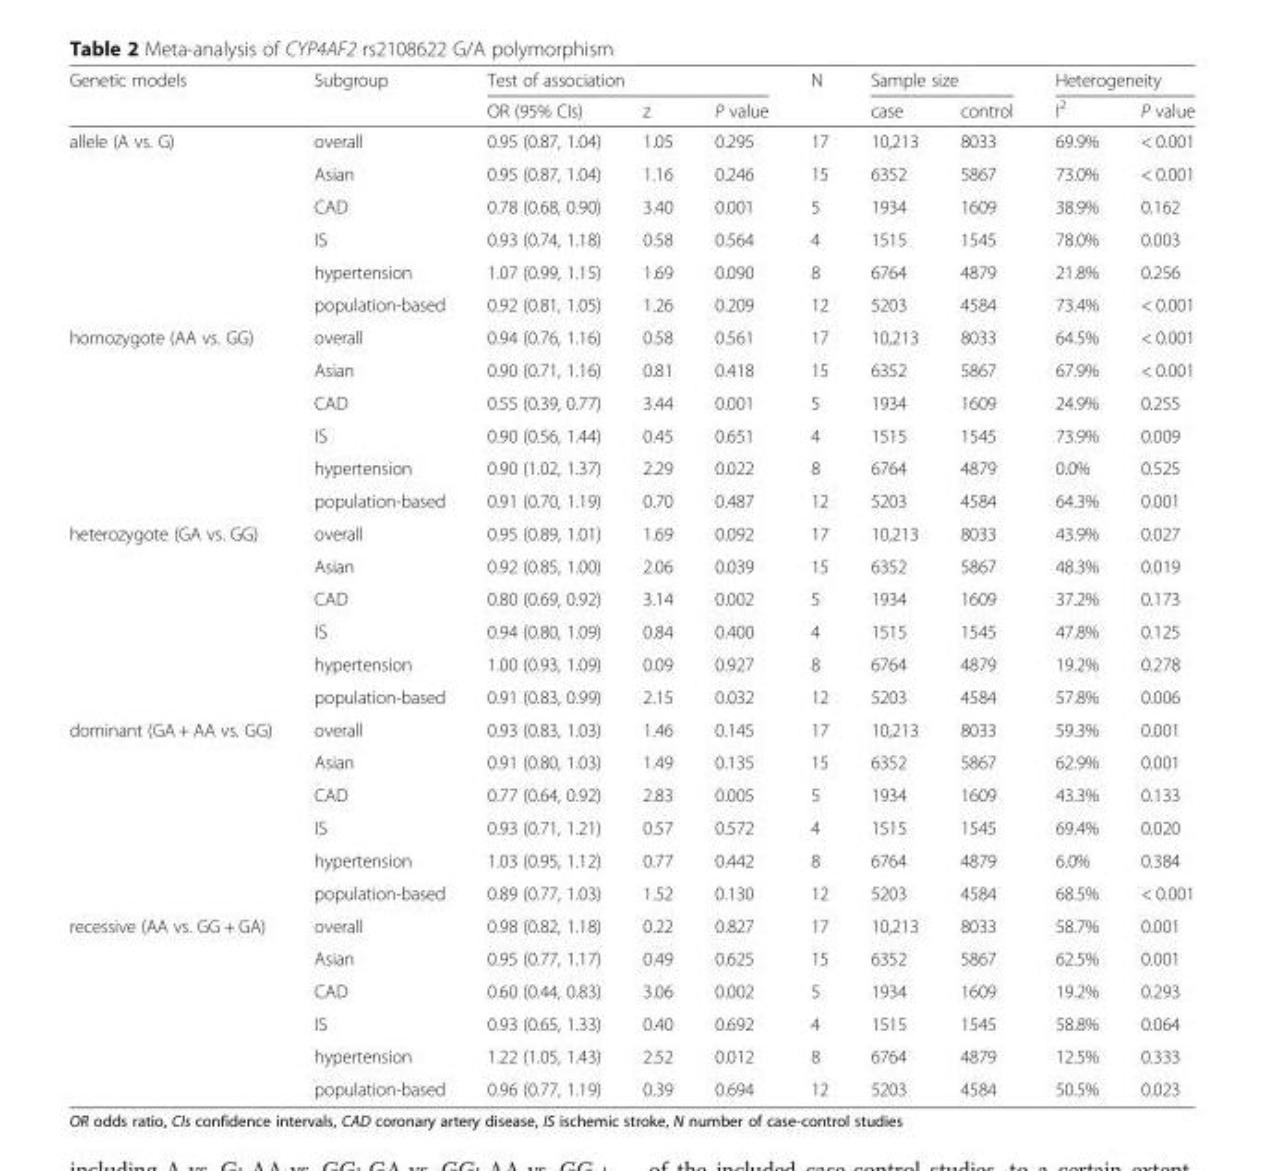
<table><thead><tr><td rowspan="2">Genetic models</td><td rowspan="2">Subgroup</td><td colspan="3">Test of association</td><td rowspan="2">N</td><td colspan="2">Sample size</td><td colspan="2">Heterogeneity</td></tr><tr><td>OR (95% CIs)</td><td>z</td><td>P value</td><td>case</td><td>control</td><td>I<sup>2</sup></td><td>P value</td></tr></thead><tbody><tr><td rowspan="6">allele (A vs. G)</td><td>overall</td><td>0.95 (0.87, 1.04)</td><td>1.05</td><td>0.295</td><td>17</td><td>10,213</td><td>8033</td><td>69.9%</td><td>&lt; 0.001</td></tr><tr><td>Asian</td><td>0.95 (0.87, 1.04)</td><td>1.16</td><td>0.246</td><td>15</td><td>6352</td><td>5867</td><td>73.0%</td><td>&lt; 0.001</td></tr><tr><td>CAD</td><td>0.78 (0.68, 0.90)</td><td>3.40</td><td>0.001</td><td>5</td><td>1934</td><td>1609</td><td>38.9%</td><td>0.162</td></tr><tr><td>IS</td><td>0.93 (0.74, 1.18)</td><td>0.58</td><td>0.564</td><td>4</td><td>1515</td><td>1545</td><td>78.0%</td><td>0.003</td></tr><tr><td>hypertension</td><td>1.07 (0.99, 1.15)</td><td>1.69</td><td>0.090</td><td>8</td><td>6764</td><td>4879</td><td>21.8%</td><td>0.256</td></tr><tr><td>population-based</td><td>0.92 (0.81, 1.05)</td><td>1.26</td><td>0.209</td><td>12</td><td>5203</td><td>4584</td><td>73.4%</td><td>&lt; 0.001</td></tr><tr><td rowspan="6">homozygote (AA vs. GG)</td><td>overall</td><td>0.94 (0.76, 1.16)</td><td>0.58</td><td>0.561</td><td>17</td><td>10,213</td><td>8033</td><td>64.5%</td><td>&lt; 0.001</td></tr><tr><td>Asian</td><td>0.90 (0.71, 1.16)</td><td>0.81</td><td>0.418</td><td>15</td><td>6352</td><td>5867</td><td>67.9%</td><td>&lt; 0.001</td></tr><tr><td>CAD</td><td>0.55 (0.39, 0.77)</td><td>3.44</td><td>0.001</td><td>5</td><td>1934</td><td>1609</td><td>24.9%</td><td>0.255</td></tr><tr><td>IS</td><td>0.90 (0.56, 1.44)</td><td>0.45</td><td>0.651</td><td>4</td><td>1515</td><td>1545</td><td>73.9%</td><td>0.009</td></tr><tr><td>hypertension</td><td>0.90 (1.02, 1.37)</td><td>2.29</td><td>0.022</td><td>8</td><td>6764</td><td>4879</td><td>0.0%</td><td>0.525</td></tr><tr><td>population-based</td><td>0.91 (0.70, 1.19)</td><td>0.70</td><td>0.487</td><td>12</td><td>5203</td><td>4584</td><td>64.3%</td><td>0.001</td></tr><tr><td rowspan="6">heterozygote (GA vs. GG)</td><td>overall</td><td>0.95 (0.89, 1.01)</td><td>1.69</td><td>0.092</td><td>17</td><td>10,213</td><td>8033</td><td>43.9%</td><td>0.027</td></tr><tr><td>Asian</td><td>0.92 (0.85, 1.00)</td><td>2.06</td><td>0.039</td><td>15</td><td>6352</td><td>5867</td><td>48.3%</td><td>0.019</td></tr><tr><td>CAD</td><td>0.80 (0.69, 0.92)</td><td>3.14</td><td>0.002</td><td>5</td><td>1934</td><td>1609</td><td>37.2%</td><td>0.173</td></tr><tr><td>IS</td><td>0.94 (0.80, 1.09)</td><td>0.84</td><td>0.400</td><td>4</td><td>1515</td><td>1545</td><td>47.8%</td><td>0.125</td></tr><tr><td>hypertension</td><td>1.00 (0.93, 1.09)</td><td>0.09</td><td>0.927</td><td>8</td><td>6764</td><td>4879</td><td>19.2%</td><td>0.278</td></tr><tr><td>population-based</td><td>0.91 (0.83, 0.99)</td><td>2.15</td><td>0.032</td><td>12</td><td>5203</td><td>4584</td><td>57.8%</td><td>0.006</td></tr><tr><td rowspan="6">dominant (GA + AA vs. GG)</td><td>overall</td><td>0.93 (0.83, 1.03)</td><td>1.46</td><td>0.145</td><td>17</td><td>10,213</td><td>8033</td><td>59.3%</td><td>0.001</td></tr><tr><td>Asian</td><td>0.91 (0.80, 1.03)</td><td>1.49</td><td>0.135</td><td>15</td><td>6352</td><td>5867</td><td>62.9%</td><td>0.001</td></tr><tr><td>CAD</td><td>0.77 (0.64, 0.92)</td><td>2.83</td><td>0.005</td><td>5</td><td>1934</td><td>1609</td><td>43.3%</td><td>0.133</td></tr><tr><td>IS</td><td>0.93 (0.71, 1.21)</td><td>0.57</td><td>0.572</td><td>4</td><td>1515</td><td>1545</td><td>69.4%</td><td>0.020</td></tr><tr><td>hypertension</td><td>1.03 (0.95, 1.12)</td><td>0.77</td><td>0.442</td><td>8</td><td>6764</td><td>4879</td><td>6.0%</td><td>0.384</td></tr><tr><td>population-based</td><td>0.89 (0.77, 1.03)</td><td>1.52</td><td>0.130</td><td>12</td><td>5203</td><td>4584</td><td>68.5%</td><td>&lt; 0.001</td></tr><tr><td rowspan="6">recessive (AA vs. GG + GA)</td><td>overall</td><td>0.98 (0.82, 1.18)</td><td>0.22</td><td>0.827</td><td>17</td><td>10,213</td><td>8033</td><td>58.7%</td><td>0.001</td></tr><tr><td>Asian</td><td>0.95 (0.77, 1.17)</td><td>0.49</td><td>0.625</td><td>15</td><td>6352</td><td>5867</td><td>62.5%</td><td>0.001</td></tr><tr><td>CAD</td><td>0.60 (0.44, 0.83)</td><td>3.06</td><td>0.002</td><td>5</td><td>1934</td><td>1609</td><td>19.2%</td><td>0.293</td></tr><tr><td>IS</td><td>0.93 (0.65, 1.33)</td><td>0.40</td><td>0.692</td><td>4</td><td>1515</td><td>1545</td><td>58.8%</td><td>0.064</td></tr><tr><td>hypertension</td><td>1.22 (1.05, 1.43)</td><td>2.52</td><td>0.012</td><td>8</td><td>6764</td><td>4879</td><td>12.5%</td><td>0.333</td></tr><tr><td>population-based</td><td>0.96 (0.77, 1.19)</td><td>0.39</td><td>0.694</td><td>12</td><td>5203</td><td>4584</td><td>50.5%</td><td>0.023</td></tr></tbody></table>